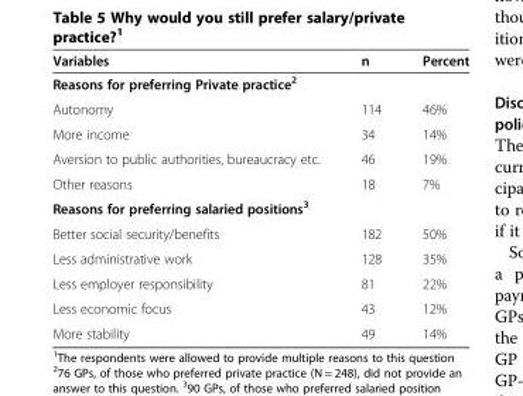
<table><thead><tr><td>Variables</td><td>n</td><td>Percent</td></tr></thead><tbody><tr><td colspan="3">Reasons for preferring Private practice<sup>2</sup></td></tr><tr><td>Autonomy</td><td>114</td><td>46%</td></tr><tr><td>More income</td><td>34</td><td>14%</td></tr><tr><td>Aversion to public authorities, bureaucracy etc.</td><td>46</td><td>19%</td></tr><tr><td>Other reasons</td><td>18</td><td>7%</td></tr><tr><td colspan="3">Reasons for preferring salaried positions<sup>3</sup></td></tr><tr><td>Better social security/benefits</td><td>182</td><td>50%</td></tr><tr><td>Less administrative work</td><td>128</td><td>35%</td></tr><tr><td>Less employer responsibility</td><td>81</td><td>22%</td></tr><tr><td>Less economic focus</td><td>43</td><td>12%</td></tr><tr><td>More stability</td><td>49</td><td>14%</td></tr></tbody></table>